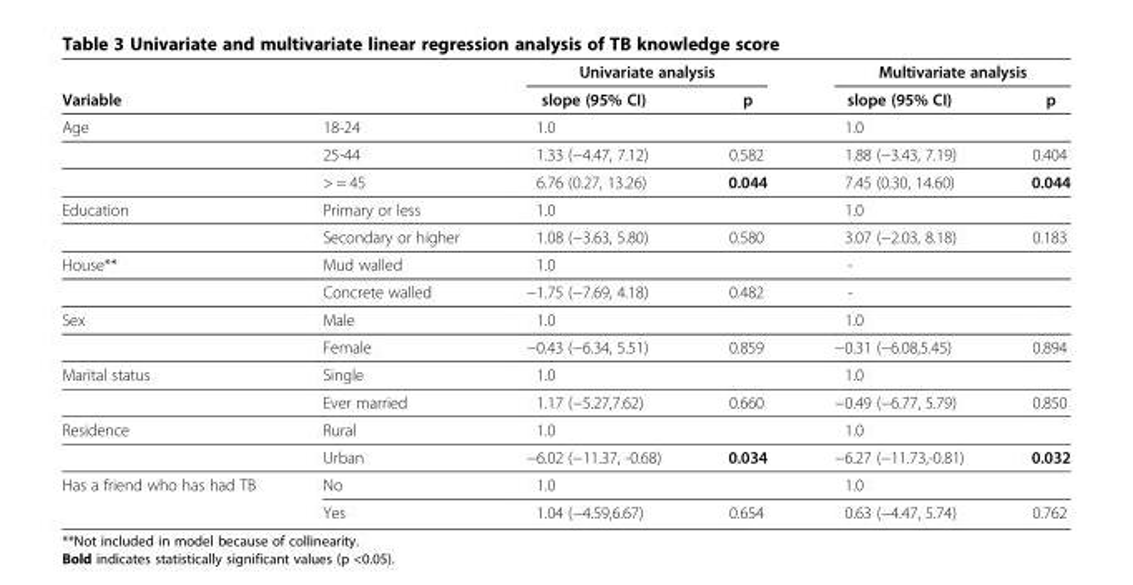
<table><thead><tr><td rowspan="2">Variable</td><td rowspan="2"></td><td colspan="2">Univariate analysis</td><td colspan="2">Multivariate analysis</td></tr><tr><td>slope (95% CI)</td><td>p</td><td>slope (95% CI)</td><td>p</td></tr></thead><tbody><tr><td rowspan="3">Age</td><td>18-24</td><td>1.0</td><td></td><td>1.0</td><td></td></tr><tr><td>25-44</td><td>1.33 (−4.47, 7.12)</td><td>0.582</td><td>1.88 (−3.43, 7.19)</td><td>0.404</td></tr><tr><td>&gt; = 45</td><td>6.76 (0.27, 13.26)</td><td>0.044</td><td>7.45 (0.30, 14.60)</td><td>0.044</td></tr><tr><td rowspan="2">Education</td><td>Primary or less</td><td>1.0</td><td></td><td>1.0</td><td></td></tr><tr><td>Secondary or higher</td><td>1.08 (−3.63, 5.80)</td><td>0.580</td><td>3.07 (−2.03, 8.18)</td><td>0.183</td></tr><tr><td rowspan="2">House**</td><td>Mud walled</td><td>1.0</td><td></td><td>-</td><td></td></tr><tr><td>Concrete walled</td><td>−1.75 (−7.69, 4.18)</td><td>0.482</td><td>-</td><td></td></tr><tr><td rowspan="2">Sex</td><td>Male</td><td>1.0</td><td></td><td>1.0</td><td></td></tr><tr><td>Female</td><td>−0.43 (−6.34, 5.51)</td><td>0.859</td><td>−0.31 (−6.08,5.45)</td><td>0.894</td></tr><tr><td rowspan="2">Marital status</td><td>Single</td><td>1.0</td><td></td><td>1.0</td><td></td></tr><tr><td>Ever married</td><td>1.17 (−5.27,7.62)</td><td>0.660</td><td>−0.49 (−6.77, 5.79)</td><td>0.850</td></tr><tr><td rowspan="2">Residence</td><td>Rural</td><td>1.0</td><td></td><td>1.0</td><td></td></tr><tr><td>Urban</td><td>−6.02 (−11.37, -0.68)</td><td>0.034</td><td>−6.27 (−11.73,-0.81)</td><td>0.032</td></tr><tr><td rowspan="2">Has a friend who has had TB</td><td>No</td><td>1.0</td><td></td><td>1.0</td><td></td></tr><tr><td>Yes</td><td>1.04 (−4.59,6.67)</td><td>0.654</td><td>0.63 (−4.47, 5.74)</td><td>0.762</td></tr></tbody></table>